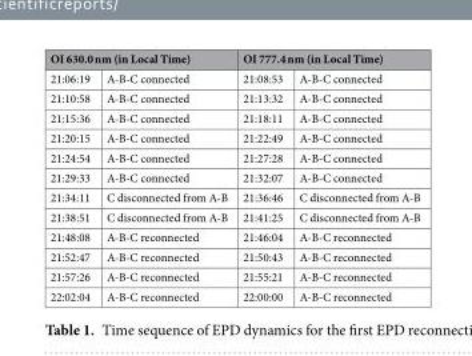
<table><thead><tr><td colspan="2">OI 630.0 nm (in Local Time)</td><td colspan="2">OI 777.4 nm (in Local Time)</td></tr><tr><td>21:06:19</td><td>A-B-C connected</td><td>21:08:53</td><td>A-B-C connected</td></tr></thead><tbody><tr><td>21:10:58</td><td>A-B-C connected</td><td>21:13:32</td><td>A-B-C connected</td></tr><tr><td>21:15:36</td><td>A-B-C connected</td><td>21:18:11</td><td>A-B-C connected</td></tr><tr><td>21:20:15</td><td>A-B-C connected</td><td>21:22:49</td><td>A-B-C connected</td></tr><tr><td>21:24:54</td><td>A-B-C connected</td><td>21:27:28</td><td>A-B-C connected</td></tr><tr><td>21:29:33</td><td>A-B-C connected</td><td>21:32:07</td><td>A-B-C connected</td></tr><tr><td>21:34:11</td><td>C disconnected from A-B</td><td>21:36:46</td><td>C disconnected from A-B</td></tr><tr><td>21:38:51</td><td>C disconnected from A-B</td><td>21:41:25</td><td>C disconnected from A-B</td></tr><tr><td>21:48:08</td><td>A-B-C reconnected</td><td>21:46:04</td><td>A-B-C reconnected</td></tr><tr><td>21:52:47</td><td>A-B-C reconnected</td><td>21:50:43</td><td>A-B-C reconnected</td></tr><tr><td>21:57:26</td><td>A-B-C reconnected</td><td>21:55:21</td><td>A-B-C reconnected</td></tr><tr><td>22:02:04</td><td>A-B-C reconnected</td><td>22:00:00</td><td>A-B-C reconnected</td></tr></tbody></table>